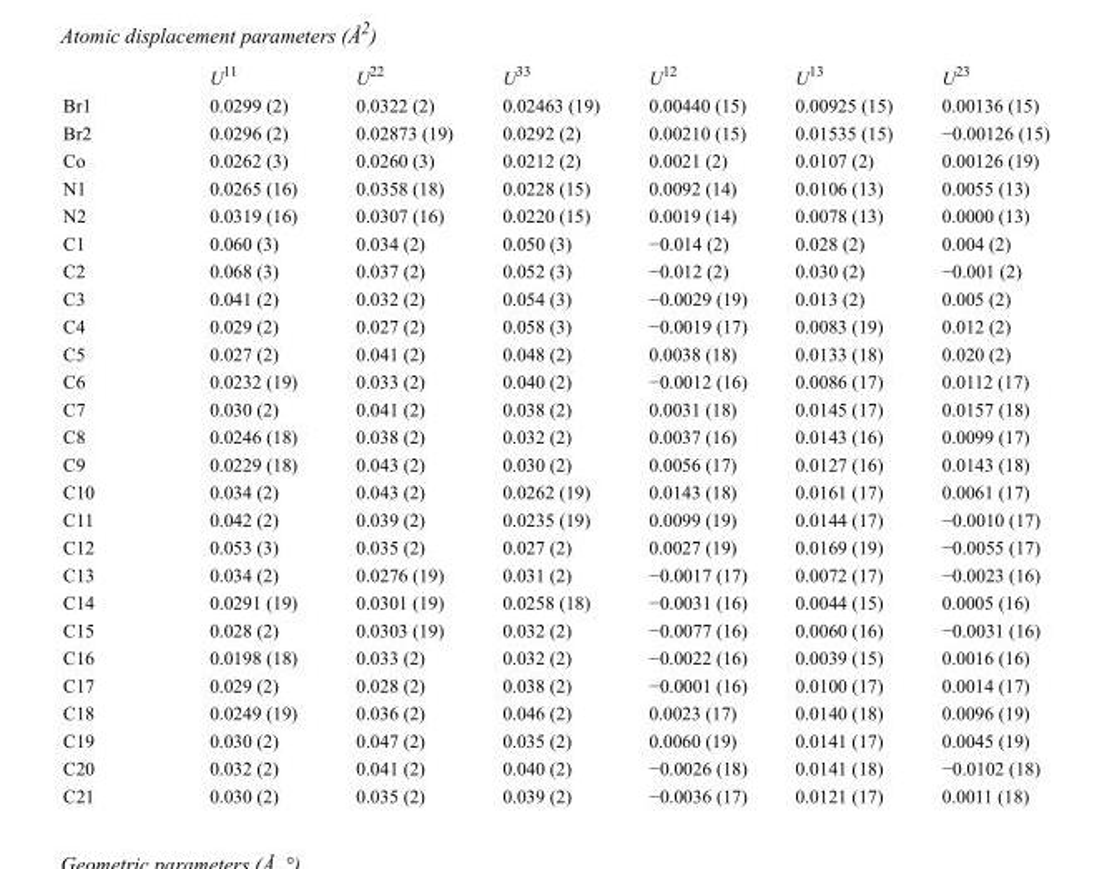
<table><thead><tr><td></td><td>U<sup>11</sup></td><td>U<sup>22</sup></td><td>U<sup>33</sup></td><td>U<sup>12</sup></td><td>U<sup>13</sup></td><td>U<sup>23</sup></td></tr></thead><tbody><tr><td>Br1</td><td>0.0299 (2)</td><td>0.0322 (2)</td><td>0.02463 (19)</td><td>0.00440 (15)</td><td>0.00925 (15)</td><td>0.00136 (15)</td></tr><tr><td>Br2</td><td>0.0296 (2)</td><td>0.02873 (19)</td><td>0.0292 (2)</td><td>0.00210 (15)</td><td>0.01535 (15)</td><td>−0.00126 (15)</td></tr><tr><td>Co</td><td>0.0262 (3)</td><td>0.0260 (3)</td><td>0.0212 (2)</td><td>0.0021 (2)</td><td>0.0107 (2)</td><td>0.00126 (19)</td></tr><tr><td>N1</td><td>0.0265 (16)</td><td>0.0358 (18)</td><td>0.0228 (15)</td><td>0.0092 (14)</td><td>0.0106 (13)</td><td>0.0055 (13)</td></tr><tr><td>N2</td><td>0.0319 (16)</td><td>0.0307 (16)</td><td>0.0220 (15)</td><td>0.0019 (14)</td><td>0.0078 (13)</td><td>0.0000 (13)</td></tr><tr><td>C1</td><td>0.060 (3)</td><td>0.034 (2)</td><td>0.050 (3)</td><td>−0.014 (2)</td><td>0.028 (2)</td><td>0.004 (2)</td></tr><tr><td>C2</td><td>0.068 (3)</td><td>0.037 (2)</td><td>0.052 (3)</td><td>−0.012 (2)</td><td>0.030 (2)</td><td>−0.001 (2)</td></tr><tr><td>C3</td><td>0.041 (2)</td><td>0.032 (2)</td><td>0.054 (3)</td><td>−0.0029 (19)</td><td>0.013 (2)</td><td>0.005 (2)</td></tr><tr><td>C4</td><td>0.029 (2)</td><td>0.027 (2)</td><td>0.058 (3)</td><td>−0.0019 (17)</td><td>0.0083 (19)</td><td>0.012 (2)</td></tr><tr><td>C5</td><td>0.027 (2)</td><td>0.041 (2)</td><td>0.048 (2)</td><td>0.0038 (18)</td><td>0.0133 (18)</td><td>0.020 (2)</td></tr><tr><td>C6</td><td>0.0232 (19)</td><td>0.033 (2)</td><td>0.040 (2)</td><td>−0.0012 (16)</td><td>0.0086 (17)</td><td>0.0112 (17)</td></tr><tr><td>C7</td><td>0.030 (2)</td><td>0.041 (2)</td><td>0.038 (2)</td><td>0.0031 (18)</td><td>0.0145 (17)</td><td>0.0157 (18)</td></tr><tr><td>C8</td><td>0.0246 (18)</td><td>0.038 (2)</td><td>0.032 (2)</td><td>0.0037 (16)</td><td>0.0143 (16)</td><td>0.0099 (17)</td></tr><tr><td>C9</td><td>0.0229 (18)</td><td>0.043 (2)</td><td>0.030 (2)</td><td>0.0056 (17)</td><td>0.0127 (16)</td><td>0.0143 (18)</td></tr><tr><td>C10</td><td>0.034 (2)</td><td>0.043 (2)</td><td>0.0262 (19)</td><td>0.0143 (18)</td><td>0.0161 (17)</td><td>0.0061 (17)</td></tr><tr><td>C11</td><td>0.042 (2)</td><td>0.039 (2)</td><td>0.0235 (19)</td><td>0.0099 (19)</td><td>0.0144 (17)</td><td>−0.0010 (17)</td></tr><tr><td>C12</td><td>0.053 (3)</td><td>0.035 (2)</td><td>0.027 (2)</td><td>0.0027 (19)</td><td>0.0169 (19)</td><td>−0.0055 (17)</td></tr><tr><td>C13</td><td>0.034 (2)</td><td>0.0276 (19)</td><td>0.031 (2)</td><td>−0.0017 (17)</td><td>0.0072 (17)</td><td>−0.0023 (16)</td></tr><tr><td>C14</td><td>0.0291 (19)</td><td>0.0301 (19)</td><td>0.0258 (18)</td><td>−0.0031 (16)</td><td>0.0044 (15)</td><td>0.0005 (16)</td></tr><tr><td>C15</td><td>0.028 (2)</td><td>0.0303 (19)</td><td>0.032 (2)</td><td>−0.0077 (16)</td><td>0.0060 (16)</td><td>−0.0031 (16)</td></tr><tr><td>C16</td><td>0.0198 (18)</td><td>0.033 (2)</td><td>0.032 (2)</td><td>−0.0022 (16)</td><td>0.0039 (15)</td><td>0.0016 (16)</td></tr><tr><td>C17</td><td>0.029 (2)</td><td>0.028 (2)</td><td>0.038 (2)</td><td>−0.0001 (16)</td><td>0.0100 (17)</td><td>0.0014 (17)</td></tr><tr><td>C18</td><td>0.0249 (19)</td><td>0.036 (2)</td><td>0.046 (2)</td><td>0.0023 (17)</td><td>0.0140 (18)</td><td>0.0096 (19)</td></tr><tr><td>C19</td><td>0.030 (2)</td><td>0.047 (2)</td><td>0.035 (2)</td><td>0.0060 (19)</td><td>0.0141 (17)</td><td>0.0045 (19)</td></tr><tr><td>C20</td><td>0.032 (2)</td><td>0.041 (2)</td><td>0.040 (2)</td><td>−0.0026 (18)</td><td>0.0141 (18)</td><td>−0.0102 (18)</td></tr><tr><td>C21</td><td>0.030 (2)</td><td>0.035 (2)</td><td>0.039 (2)</td><td>−0.0036 (17)</td><td>0.0121 (17)</td><td>0.0011 (18)</td></tr></tbody></table>